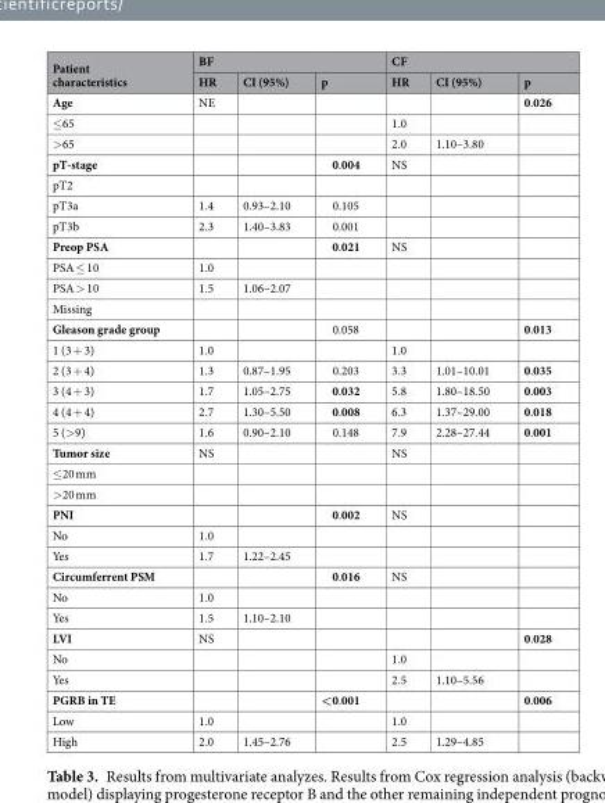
<table><thead><tr><td rowspan="2">Patient characteristics</td><td colspan="3">BF</td><td colspan="3">CF</td></tr><tr><td>HR</td><td>CI (95%)</td><td>p</td><td>HR</td><td>CI (95%)</td><td>p</td></tr></thead><tbody><tr><td>Age</td><td>NE</td><td></td><td></td><td></td><td></td><td>0.026</td></tr><tr><td>≤65</td><td></td><td></td><td></td><td>1.0</td><td></td><td></td></tr><tr><td>&gt;65</td><td></td><td></td><td></td><td>2.0</td><td>1.10–3.80</td><td></td></tr><tr><td>pT-stage</td><td></td><td></td><td>0.004</td><td>NS</td><td></td><td></td></tr><tr><td colspan="7">pT2</td></tr><tr><td>pT3a</td><td>1.4</td><td>0.93–2.10</td><td>0.105</td><td></td><td></td><td></td></tr><tr><td>pT3b</td><td>2.3</td><td>1.40–3.83</td><td>0.001</td><td></td><td></td><td></td></tr><tr><td>Preop PSA</td><td></td><td></td><td>0.021</td><td>NS</td><td></td><td></td></tr><tr><td>PSA ≤ 10</td><td>1.0</td><td></td><td></td><td></td><td></td><td></td></tr><tr><td>PSA &gt; 10</td><td>1.5</td><td>1.06–2.07</td><td></td><td></td><td></td><td></td></tr><tr><td colspan="7">Missing</td></tr><tr><td>Gleason grade group</td><td></td><td></td><td>0.058</td><td></td><td></td><td>0.013</td></tr><tr><td>1 (3 + 3)</td><td>1.0</td><td></td><td></td><td>1.0</td><td></td><td></td></tr><tr><td>2 (3 + 4)</td><td>1.3</td><td>0.87–1.95</td><td>0.203</td><td>3.3</td><td>1.01–10.01</td><td>0.035</td></tr><tr><td>3 (4 + 3)</td><td>1.7</td><td>1.05–2.75</td><td>0.032</td><td>5.8</td><td>1.80–18.50</td><td>0.003</td></tr><tr><td>4 (4 + 4)</td><td>2.7</td><td>1.30–5.50</td><td>0.008</td><td>6.3</td><td>1.37–29.00</td><td>0.018</td></tr><tr><td>5 (&gt;9)</td><td>1.6</td><td>0.90–2.10</td><td>0.148</td><td>7.9</td><td>2.28–27.44</td><td>0.001</td></tr><tr><td>Tumor size</td><td>NS</td><td></td><td></td><td>NS</td><td></td><td></td></tr><tr><td colspan="7">≤20 mm</td></tr><tr><td colspan="7">&gt;20 mm</td></tr><tr><td>PNI</td><td></td><td></td><td>0.002</td><td>NS</td><td></td><td></td></tr><tr><td>No</td><td>1.0</td><td></td><td></td><td></td><td></td><td></td></tr><tr><td>Yes</td><td>1.7</td><td>1.22–2.45</td><td></td><td></td><td></td><td></td></tr><tr><td>Circumferrent PSM</td><td></td><td></td><td>0.016</td><td>NS</td><td></td><td></td></tr><tr><td>No</td><td>1.0</td><td></td><td></td><td></td><td></td><td></td></tr><tr><td>Yes</td><td>1.5</td><td>1.10–2.10</td><td></td><td></td><td></td><td></td></tr><tr><td>LVI</td><td>NS</td><td></td><td></td><td></td><td></td><td>0.028</td></tr><tr><td>No</td><td></td><td></td><td></td><td>1.0</td><td></td><td></td></tr><tr><td>Yes</td><td></td><td></td><td></td><td>2.5</td><td>1.10–5.56</td><td></td></tr><tr><td>PGRB in TE</td><td></td><td></td><td>&lt;0.001</td><td></td><td></td><td>0.006</td></tr><tr><td>Low</td><td>1.0</td><td></td><td></td><td>1.0</td><td></td><td></td></tr><tr><td>High</td><td>2.0</td><td>1.45–2.76</td><td></td><td>2.5</td><td>1.29–4.85</td><td></td></tr></tbody></table>